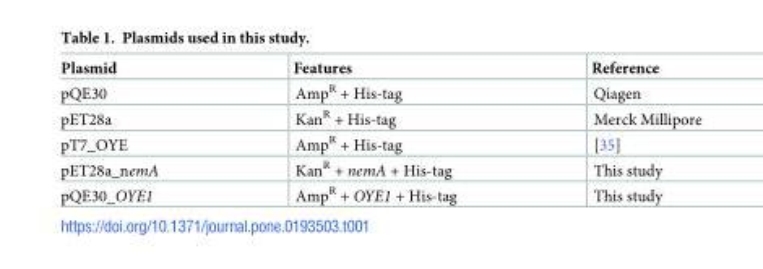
<table><thead><tr><td>Plasmid</td><td>Features</td><td>Reference</td></tr></thead><tbody><tr><td>pQE30</td><td>Amp<sup>R</sup> + His-tag</td><td>Qiagen</td></tr><tr><td>pET28a</td><td>Kan<sup>R</sup> + His-tag</td><td>Merck Millipore</td></tr><tr><td>pT7_OYE</td><td>Amp<sup>R</sup> + His-tag</td><td>[35]</td></tr><tr><td>pET28a_nemA</td><td>Kan<sup>R</sup> + nemA + His-tag</td><td>This study</td></tr><tr><td>pQE30_OYE1</td><td>Amp<sup>R</sup> + OYE1 + His-tag</td><td>This study</td></tr></tbody></table>